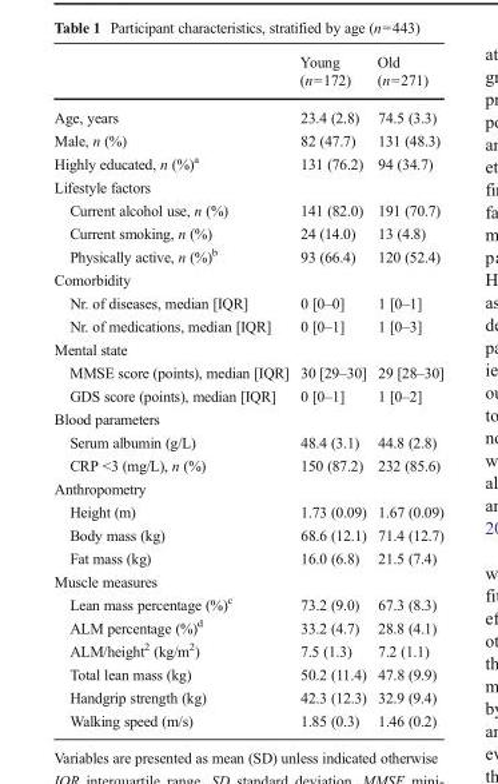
<table><thead><tr><td></td><td>Young (n=172)</td><td>Old (n=271)</td></tr></thead><tbody><tr><td>Age, years</td><td>23.4 (2.8)</td><td>74.5 (3.3)</td></tr><tr><td>Male, n (%)</td><td>82 (47.7)</td><td>131 (48.3)</td></tr><tr><td>Highly educated, n (%)<sup>a</sup></td><td>131 (76.2)</td><td>94 (34.7)</td></tr><tr><td colspan="3">Lifestyle factors</td></tr><tr><td>Current alcohol use, n (%)</td><td>141 (82.0)</td><td>191 (70.7)</td></tr><tr><td>Current smoking, n (%)</td><td>24 (14.0)</td><td>13 (4.8)</td></tr><tr><td>Physically active, n (%)<sup>b</sup></td><td>93 (66.4)</td><td>120 (52.4)</td></tr><tr><td colspan="3">Comorbidity</td></tr><tr><td>Nr. of diseases, median [IQR]</td><td>0 [0–0]</td><td>1 [0–1]</td></tr><tr><td>Nr. of medications, median [IQR]</td><td>0 [0–1]</td><td>1 [0–3]</td></tr><tr><td colspan="3">Mental state</td></tr><tr><td>MMSE score (points), median [IQR]</td><td>30 [29–30]</td><td>29 [28–30]</td></tr><tr><td>GDS score (points), median [IQR]</td><td>0 [0–1]</td><td>1 [0–2]</td></tr><tr><td colspan="3">Blood parameters</td></tr><tr><td>Serum albumin (g/L)</td><td>48.4 (3.1)</td><td>44.8 (2.8)</td></tr><tr><td>CRP &lt;3 (mg/L), n (%)</td><td>150 (87.2)</td><td>232 (85.6)</td></tr><tr><td colspan="3">Anthropometry</td></tr><tr><td>Height (m)</td><td>1.73 (0.09)</td><td>1.67 (0.09)</td></tr><tr><td>Body mass (kg)</td><td>68.6 (12.1)</td><td>71.4 (12.7)</td></tr><tr><td>Fat mass (kg)</td><td>16.0 (6.8)</td><td>21.5 (7.4)</td></tr><tr><td colspan="3">Muscle measures</td></tr><tr><td>Lean mass percentage (%)<sup>c</sup></td><td>73.2 (9.0)</td><td>67.3 (8.3)</td></tr><tr><td>ALM percentage (%)<sup>d</sup></td><td>33.2 (4.7)</td><td>28.8 (4.1)</td></tr><tr><td>ALM/height<sup>2</sup> (kg/m<sup>2</sup>)</td><td>7.5 (1.3)</td><td>7.2 (1.1)</td></tr><tr><td>Total lean mass (kg)</td><td>50.2 (11.4)</td><td>47.8 (9.9)</td></tr><tr><td>Handgrip strength (kg)</td><td>42.3 (12.3)</td><td>32.9 (9.4)</td></tr><tr><td>Walking speed (m/s)</td><td>1.85 (0.3)</td><td>1.46 (0.2)</td></tr></tbody></table>